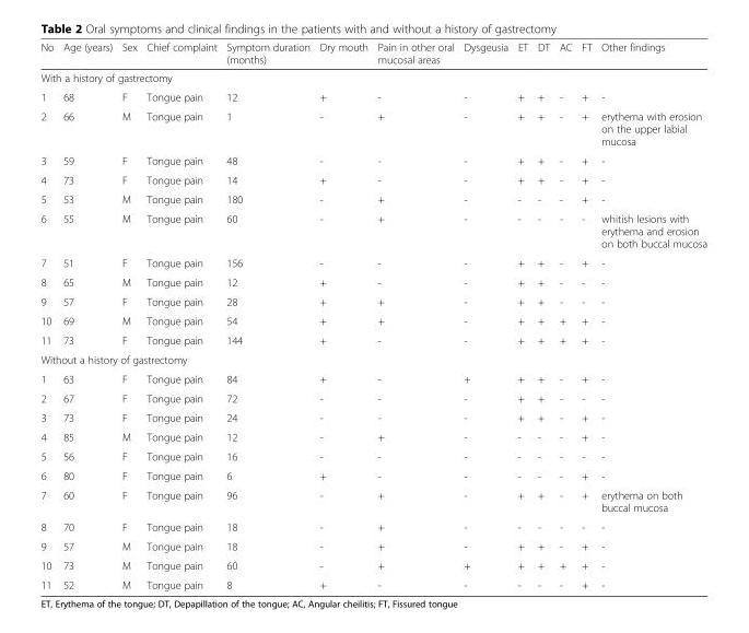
<table><thead><tr><td>No</td><td>Age (years)</td><td>Sex</td><td>Chief complaint</td><td>Symptom duration (months)</td><td>Dry mouth</td><td>Pain in other oral mucosal areas</td><td>Dysgeusia</td><td>ET</td><td>DT</td><td>AC</td><td>FT</td><td>Other findings</td></tr></thead><tbody><tr><td colspan="13">With a history of gastrectomy</td></tr><tr><td>1</td><td>68</td><td>F</td><td>Tongue pain</td><td>12</td><td>+</td><td>-</td><td>-</td><td>+</td><td>+</td><td>-</td><td>+</td><td>-</td></tr><tr><td>2</td><td>66</td><td>M</td><td>Tongue pain</td><td>1</td><td>-</td><td>+</td><td>-</td><td>+</td><td>+</td><td>-</td><td>+</td><td>erythema with erosion on the upper labial mucosa</td></tr><tr><td>3</td><td>59</td><td>F</td><td>Tongue pain</td><td>48</td><td>-</td><td>-</td><td>-</td><td>+</td><td>+</td><td>-</td><td>+</td><td>-</td></tr><tr><td>4</td><td>73</td><td>F</td><td>Tongue pain</td><td>14</td><td>+</td><td>-</td><td>-</td><td>+</td><td>+</td><td>-</td><td>+</td><td>-</td></tr><tr><td>5</td><td>53</td><td>M</td><td>Tongue pain</td><td>180</td><td>-</td><td>+</td><td>-</td><td>-</td><td>-</td><td>-</td><td>+</td><td>-</td></tr><tr><td>6</td><td>55</td><td>M</td><td>Tongue pain</td><td>60</td><td>-</td><td>+</td><td>-</td><td>-</td><td>-</td><td>-</td><td>-</td><td>whitish lesions with erythema and erosion on both buccal mucosa</td></tr><tr><td>7</td><td>51</td><td>F</td><td>Tongue pain</td><td>156</td><td>-</td><td>-</td><td>-</td><td>+</td><td>+</td><td>-</td><td>+</td><td>-</td></tr><tr><td>8</td><td>65</td><td>M</td><td>Tongue pain</td><td>12</td><td>+</td><td>-</td><td>-</td><td>+</td><td>+</td><td>-</td><td>-</td><td>-</td></tr><tr><td>9</td><td>57</td><td>F</td><td>Tongue pain</td><td>28</td><td>+</td><td>+</td><td>-</td><td>+</td><td>+</td><td>-</td><td>-</td><td>-</td></tr><tr><td>10</td><td>69</td><td>M</td><td>Tongue pain</td><td>54</td><td>+</td><td>+</td><td>-</td><td>+</td><td>+</td><td>+</td><td>+</td><td>-</td></tr><tr><td>11</td><td>73</td><td>F</td><td>Tongue pain</td><td>144</td><td>+</td><td>-</td><td>-</td><td>+</td><td>+</td><td>+</td><td>+</td><td>-</td></tr><tr><td colspan="13">Without a history of gastrectomy</td></tr><tr><td>1</td><td>63</td><td>F</td><td>Tongue pain</td><td>84</td><td>+</td><td>-</td><td>+</td><td>+</td><td>+</td><td>-</td><td>+</td><td>-</td></tr><tr><td>2</td><td>67</td><td>F</td><td>Tongue pain</td><td>72</td><td>-</td><td>-</td><td>-</td><td>+</td><td>+</td><td>-</td><td>-</td><td>-</td></tr><tr><td>3</td><td>73</td><td>F</td><td>Tongue pain</td><td>24</td><td>-</td><td>-</td><td>-</td><td>+</td><td>+</td><td>-</td><td>+</td><td>-</td></tr><tr><td>4</td><td>85</td><td>M</td><td>Tongue pain</td><td>12</td><td>-</td><td>+</td><td>-</td><td>-</td><td>-</td><td>-</td><td>+</td><td>-</td></tr><tr><td>5</td><td>56</td><td>F</td><td>Tongue pain</td><td>16</td><td>-</td><td>-</td><td>-</td><td>-</td><td>-</td><td>-</td><td>-</td><td>-</td></tr><tr><td>6</td><td>80</td><td>F</td><td>Tongue pain</td><td>6</td><td>+</td><td>-</td><td>-</td><td>-</td><td>-</td><td>-</td><td>+</td><td>-</td></tr><tr><td>7</td><td>60</td><td>F</td><td>Tongue pain</td><td>96</td><td>-</td><td>+</td><td>-</td><td>+</td><td>+</td><td>-</td><td>+</td><td>erythema on both buccal mucosa</td></tr><tr><td>8</td><td>70</td><td>F</td><td>Tongue pain</td><td>18</td><td>-</td><td>+</td><td>-</td><td>-</td><td>-</td><td>-</td><td>-</td><td>-</td></tr><tr><td>9</td><td>57</td><td>M</td><td>Tongue pain</td><td>18</td><td>-</td><td>+</td><td>-</td><td>+</td><td>+</td><td>-</td><td>+</td><td>-</td></tr><tr><td>10</td><td>73</td><td>M</td><td>Tongue pain</td><td>60</td><td>-</td><td>+</td><td>+</td><td>+</td><td>+</td><td>+</td><td>+</td><td>-</td></tr><tr><td>11</td><td>52</td><td>M</td><td>Tongue pain</td><td>8</td><td>+</td><td>-</td><td>-</td><td>-</td><td>-</td><td>-</td><td>+</td><td>-</td></tr></tbody></table>